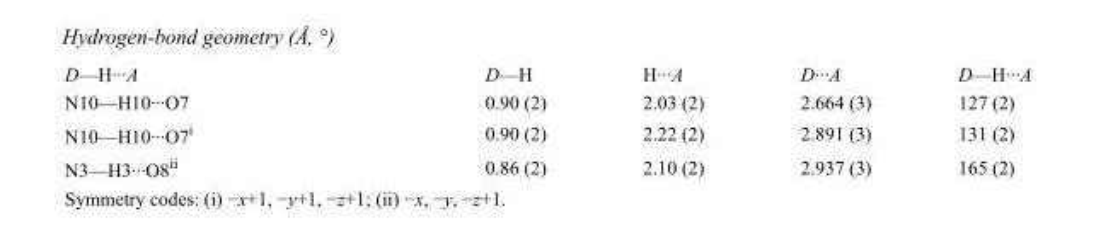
<table><tbody><tr><td>D—H···A</td><td>D—H</td><td>H···A</td><td>D···A</td><td>D—H···A</td></tr><tr><td>N10—H10···O7</td><td>0.90 (2)</td><td>2.03 (2)</td><td>2.664 (3)</td><td>127 (2)</td></tr><tr><td>N10—H10···O7<sup>i</sup></td><td>0.90 (2)</td><td>2.22 (2)</td><td>2.891 (3)</td><td>131 (2)</td></tr><tr><td>N3—H3···O8<sup>ii</sup></td><td>0.86 (2)</td><td>2.10 (2)</td><td>2.937 (3)</td><td>165 (2)</td></tr></tbody></table>